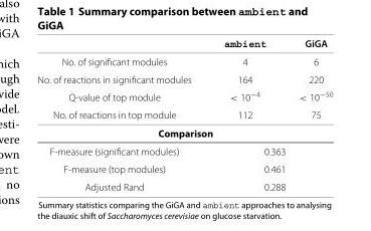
<table><thead><tr><td></td><td>ambient</td><td>GiGA</td></tr></thead><tbody><tr><td>No. of significant modules</td><td>4</td><td>6</td></tr><tr><td>No. of reactions in significant modules</td><td>164</td><td>220</td></tr><tr><td>Q-value of top module</td><td>&lt; 10<sup>−4</sup></td><td>&lt; 10<sup>−50</sup></td></tr><tr><td>No. of reactions in top module</td><td>112</td><td>75</td></tr><tr><td colspan="3">Comparison</td></tr><tr><td>F-measure (significant modules)</td><td colspan="2">0.363</td></tr><tr><td>F-measure (top modules)</td><td colspan="2">0.461</td></tr><tr><td>Adjusted Rand</td><td colspan="2">0.288</td></tr></tbody></table>